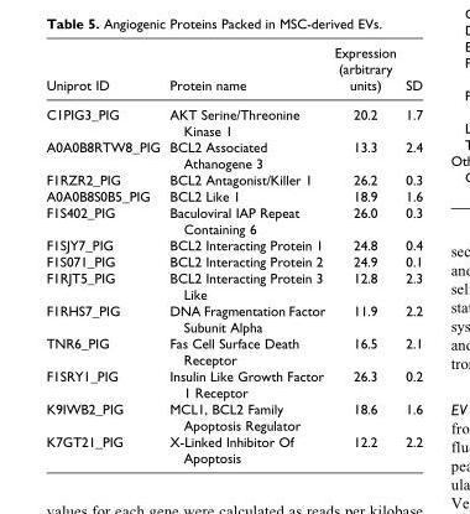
<table><thead><tr><td>Uniprot ID</td><td>Protein name</td><td>Expression (arbitrary units)</td><td>SD</td></tr></thead><tbody><tr><td>C1PIG3_PIG</td><td>AKT Serine/Threonine Kinase 1</td><td>20.2</td><td>1.7</td></tr><tr><td>A0A0B8RTW8_PIG</td><td>BCL2 Associated Athanogene 3</td><td>13.3</td><td>2.4</td></tr><tr><td>F1RZR2_PIG</td><td>BCL2 Antagonist/Killer 1</td><td>26.2</td><td>0.3</td></tr><tr><td>A0A0B8S0B5_PIG</td><td>BCL2 Like 1</td><td>18.9</td><td>1.6</td></tr><tr><td>F1S402_PIG</td><td>Baculoviral IAP Repeat Containing 6</td><td>26.0</td><td>0.3</td></tr><tr><td>F1SJY7_PIG</td><td>BCL2 Interacting Protein 1</td><td>24.8</td><td>0.4</td></tr><tr><td>F1S071_PIG</td><td>BCL2 Interacting Protein 2</td><td>24.9</td><td>0.1</td></tr><tr><td>F1RJT5_PIG</td><td>BCL2 Interacting Protein 3 Like</td><td>12.8</td><td>2.3</td></tr><tr><td>F1RHS7_PIG</td><td>DNA Fragmentation Factor Subunit Alpha</td><td>11.9</td><td>2.2</td></tr><tr><td>TNR6_PIG</td><td>Fas Cell Surface Death Receptor</td><td>16.5</td><td>2.1</td></tr><tr><td>F1SRY1_PIG</td><td>Insulin Like Growth Factor 1 Receptor</td><td>26.3</td><td>0.2</td></tr><tr><td>K9IWB2_PIG</td><td>MCL1, BCL2 Family Apoptosis Regulator</td><td>18.6</td><td>1.6</td></tr><tr><td>K7GT21_PIG</td><td>X-Linked Inhibitor Of Apoptosis</td><td>12.2</td><td>2.2</td></tr></tbody></table>